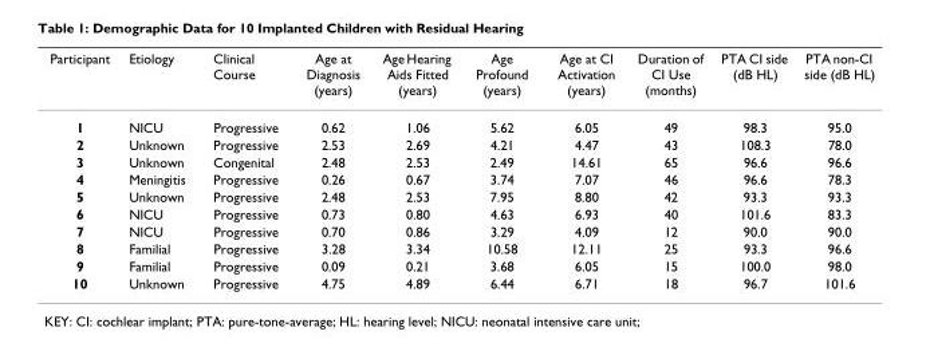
<table><thead><tr><td>Participant</td><td>Etiology</td><td>Clinical Course</td><td>Age at Diagnosis (years)</td><td>Age Hearing Aids Fitted (years)</td><td>Age Profound (years)</td><td>Age at CI Activation (years)</td><td>Duration of CI Use (months)</td><td>PTA CI side (dB HL)</td><td>PTA non-CI side (dB HL)</td></tr></thead><tbody><tr><td>1</td><td>NICU</td><td>Progressive</td><td>0.62</td><td>1.06</td><td>5.62</td><td>6.05</td><td>49</td><td>98.3</td><td>95.0</td></tr><tr><td>2</td><td>Unknown</td><td>Progressive</td><td>2.53</td><td>2.69</td><td>4.21</td><td>4.47</td><td>43</td><td>108.3</td><td>78.0</td></tr><tr><td>3</td><td>Unknown</td><td>Congenital</td><td>2.48</td><td>2.53</td><td>2.49</td><td>14.61</td><td>65</td><td>96.6</td><td>96.6</td></tr><tr><td>4</td><td>Meningitis</td><td>Progressive</td><td>0.26</td><td>0.67</td><td>3.74</td><td>7.07</td><td>46</td><td>96.6</td><td>78.3</td></tr><tr><td>5</td><td>Unknown</td><td>Progressive</td><td>2.48</td><td>2.53</td><td>7.95</td><td>8.80</td><td>42</td><td>93.3</td><td>93.3</td></tr><tr><td>6</td><td>NICU</td><td>Progressive</td><td>0.73</td><td>0.80</td><td>4.63</td><td>6.93</td><td>40</td><td>101.6</td><td>83.3</td></tr><tr><td>7</td><td>NICU</td><td>Progressive</td><td>0.70</td><td>0.86</td><td>3.29</td><td>4.09</td><td>12</td><td>90.0</td><td>90.0</td></tr><tr><td>8</td><td>Familial</td><td>Progressive</td><td>3.28</td><td>3.34</td><td>10.58</td><td>12.11</td><td>25</td><td>93.3</td><td>96.6</td></tr><tr><td>9</td><td>Familial</td><td>Progressive</td><td>0.09</td><td>0.21</td><td>3.68</td><td>6.05</td><td>15</td><td>100.0</td><td>98.0</td></tr><tr><td>10</td><td>Unknown</td><td>Progressive</td><td>4.75</td><td>4.89</td><td>6.44</td><td>6.71</td><td>18</td><td>96.7</td><td>101.6</td></tr></tbody></table>